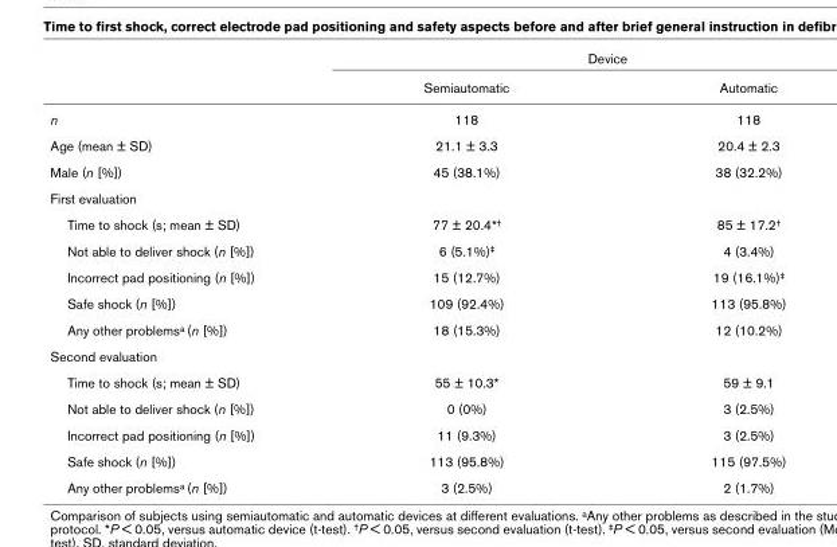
<table><thead><tr><td rowspan="2"></td><td colspan="2">Device</td></tr><tr><td>Semiautomatic</td><td>Automatic</td></tr></thead><tbody><tr><td>n</td><td>118</td><td>118</td></tr><tr><td>Age (mean ± SD)</td><td>21.1 ± 3.3</td><td>20.4 ± 2.3</td></tr><tr><td>Male (n [%])</td><td>45 (38.1%)</td><td>38 (32.2%)</td></tr><tr><td colspan="3">First evaluation</td></tr><tr><td>Time to shock (s; mean ± SD)</td><td>77 ± 20.4*†</td><td>85 ± 17.2†</td></tr><tr><td>Not able to deliver shock (n [%])</td><td>6 (5.1%)‡</td><td>4 (3.4%)</td></tr><tr><td>Incorrect pad positioning (n [%])</td><td>15 (12.7%)</td><td>19 (16.1%)‡</td></tr><tr><td>Safe shock (n [%])</td><td>109 (92.4%)</td><td>113 (95.8%)</td></tr><tr><td>Any other problemsa (n [%])</td><td>18 (15.3%)</td><td>12 (10.2%)</td></tr><tr><td colspan="3">Second evaluation</td></tr><tr><td>Time to shock (s; mean ± SD)</td><td>55 ± 10.3*</td><td>59 ± 9.1</td></tr><tr><td>Not able to deliver shock (n [%])</td><td>0 (0%)</td><td>3 (2.5%)</td></tr><tr><td>Incorrect pad positioning (n [%])</td><td>11 (9.3%)</td><td>3 (2.5%)</td></tr><tr><td>Safe shock (n [%])</td><td>113 (95.8%)</td><td>115 (97.5%)</td></tr><tr><td>Any other problemsa (n [%])</td><td>3 (2.5%)</td><td>2 (1.7%)</td></tr></tbody></table>